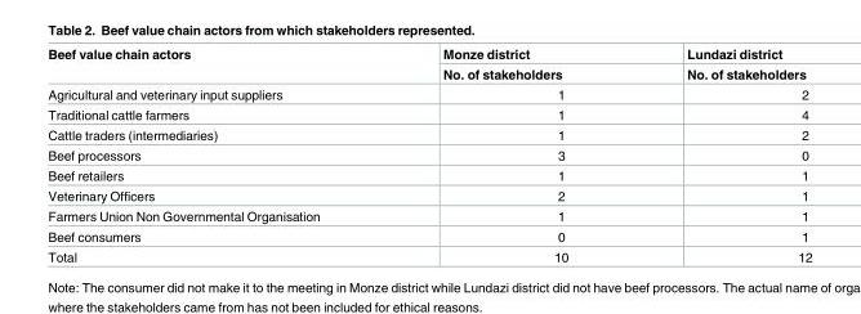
<table><thead><tr><td rowspan="2">Beef value chain actors</td><td rowspan="2">Monze district No. of stakeholders</td><td rowspan="2">Lundazi district No. of stakeholders</td></tr><tr></tr></thead><tbody><tr><td>Agricultural and veterinary input suppliers</td><td>1</td><td>2</td></tr><tr><td>Traditional cattle farmers</td><td>1</td><td>4</td></tr><tr><td>Cattle traders (intermediaries)</td><td>1</td><td>2</td></tr><tr><td>Beef processors</td><td>3</td><td>0</td></tr><tr><td>Beef retailers</td><td>1</td><td>1</td></tr><tr><td>Veterinary Officers</td><td>2</td><td>1</td></tr><tr><td>Farmers Union Non Governmental Organisation</td><td>1</td><td>1</td></tr><tr><td>Beef consumers</td><td>0</td><td>1</td></tr><tr><td>Total</td><td>10</td><td>12</td></tr></tbody></table>